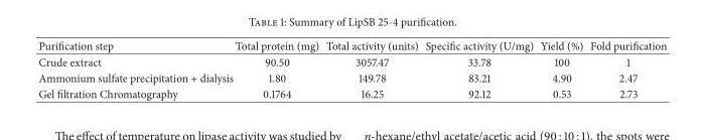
<table><thead><tr><td>Purification step</td><td>Total protein (mg)</td><td>Total activity (units)</td><td>Specific activity (U/mg)</td><td>Yield (%)</td><td>Fold purification</td></tr></thead><tbody><tr><td>Crude extract</td><td>90.50</td><td>3057.47</td><td>33.78</td><td>100</td><td>1</td></tr><tr><td>Ammonium sulfate precipitation + dialysis</td><td>1.80</td><td>149.78</td><td>83.21</td><td>4.90</td><td>2.47</td></tr><tr><td>Gel filtration Chromatography</td><td>0.1764</td><td>16.25</td><td>92.12</td><td>0.53</td><td>2.73</td></tr></tbody></table>